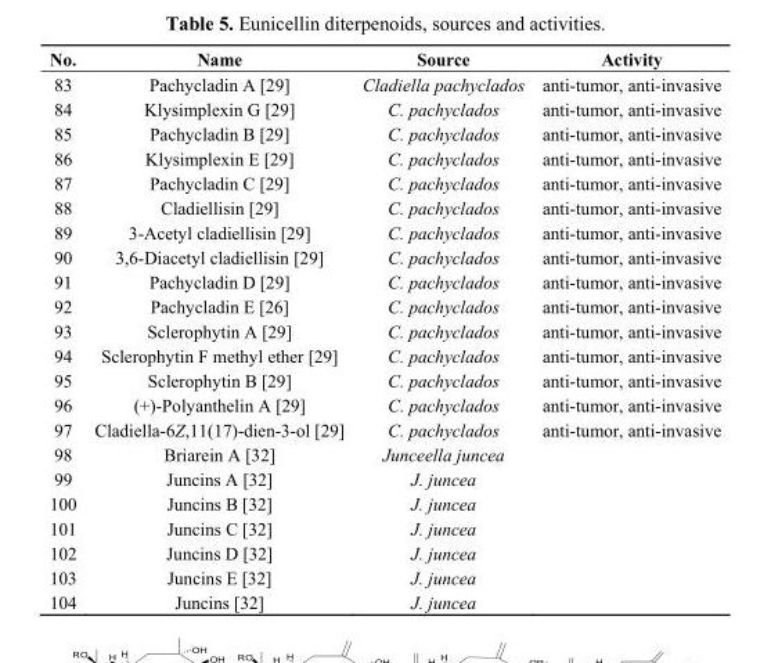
<table><thead><tr><td>No.</td><td>Name</td><td>Source</td><td>Activity</td></tr></thead><tbody><tr><td>83</td><td>Pachycladin A [29]</td><td>Cladiella pachyclados</td><td>anti-tumor, anti-invasive</td></tr><tr><td>84</td><td>Klysimplexin G [29]</td><td>C. pachyclados</td><td>anti-tumor, anti-invasive</td></tr><tr><td>85</td><td>Pachycladin B [29]</td><td>C. pachyclados</td><td>anti-tumor, anti-invasive</td></tr><tr><td>86</td><td>Klysimplexin E [29]</td><td>C. pachyclados</td><td>anti-tumor, anti-invasive</td></tr><tr><td>87</td><td>Pachycladin C [29]</td><td>C. pachyclados</td><td>anti-tumor, anti-invasive</td></tr><tr><td>88</td><td>Cladiellisin [29]</td><td>C. pachyclados</td><td>anti-tumor, anti-invasive</td></tr><tr><td>89</td><td>3-Acetyl cladiellisin [29]</td><td>C. pachyclados</td><td>anti-tumor, anti-invasive</td></tr><tr><td>90</td><td>3,6-Diacetyl cladiellisin [29]</td><td>C. pachyclados</td><td>anti-tumor, anti-invasive</td></tr><tr><td>91</td><td>Pachycladin D [29]</td><td>C. pachyclados</td><td>anti-tumor, anti-invasive</td></tr><tr><td>92</td><td>Pachycladin E [26]</td><td>C. pachyclados</td><td>anti-tumor, anti-invasive</td></tr><tr><td>93</td><td>Sclerophytin A [29]</td><td>C. pachyclados</td><td>anti-tumor, anti-invasive</td></tr><tr><td>94</td><td>Sclerophytin F methyl ether [29]</td><td>C. pachyclados</td><td>anti-tumor, anti-invasive</td></tr><tr><td>95</td><td>Sclerophytin B [29]</td><td>C. pachyclados</td><td>anti-tumor, anti-invasive</td></tr><tr><td>96</td><td>(+)-Polyanthelin A [29]</td><td>C. pachyclados</td><td>anti-tumor, anti-invasive</td></tr><tr><td>97</td><td>Cladiella-6Z,11(17)-dien-3-ol [29]</td><td>C. pachyclados</td><td>anti-tumor, anti-invasive</td></tr><tr><td>98</td><td>Briarein A [32]</td><td>Junceella juncea</td><td></td></tr><tr><td>99</td><td>Juncins A [32]</td><td>J. juncea</td><td></td></tr><tr><td>100</td><td>Juncins B [32]</td><td>J. juncea</td><td></td></tr><tr><td>101</td><td>Juncins C [32]</td><td>J. juncea</td><td></td></tr><tr><td>102</td><td>Juncins D [32]</td><td>J. juncea</td><td></td></tr><tr><td>103</td><td>Juncins E [32]</td><td>J. juncea</td><td></td></tr><tr><td>104</td><td>Juncins [32]</td><td>J. juncea</td><td></td></tr></tbody></table>